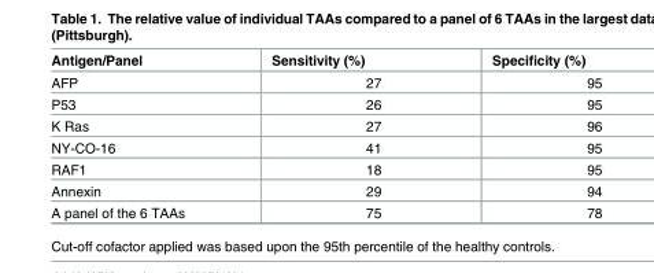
<table><thead><tr><td>Antigen/Panel</td><td>Sensitivity (%)</td><td>Specificity (%)</td></tr></thead><tbody><tr><td>AFP</td><td>27</td><td>95</td></tr><tr><td>P53</td><td>26</td><td>95</td></tr><tr><td>K Ras</td><td>27</td><td>96</td></tr><tr><td>NY-CO-16</td><td>41</td><td>95</td></tr><tr><td>RAF1</td><td>18</td><td>95</td></tr><tr><td>Annexin</td><td>29</td><td>94</td></tr><tr><td>A panel of the 6 TAAs</td><td>75</td><td>78</td></tr></tbody></table>